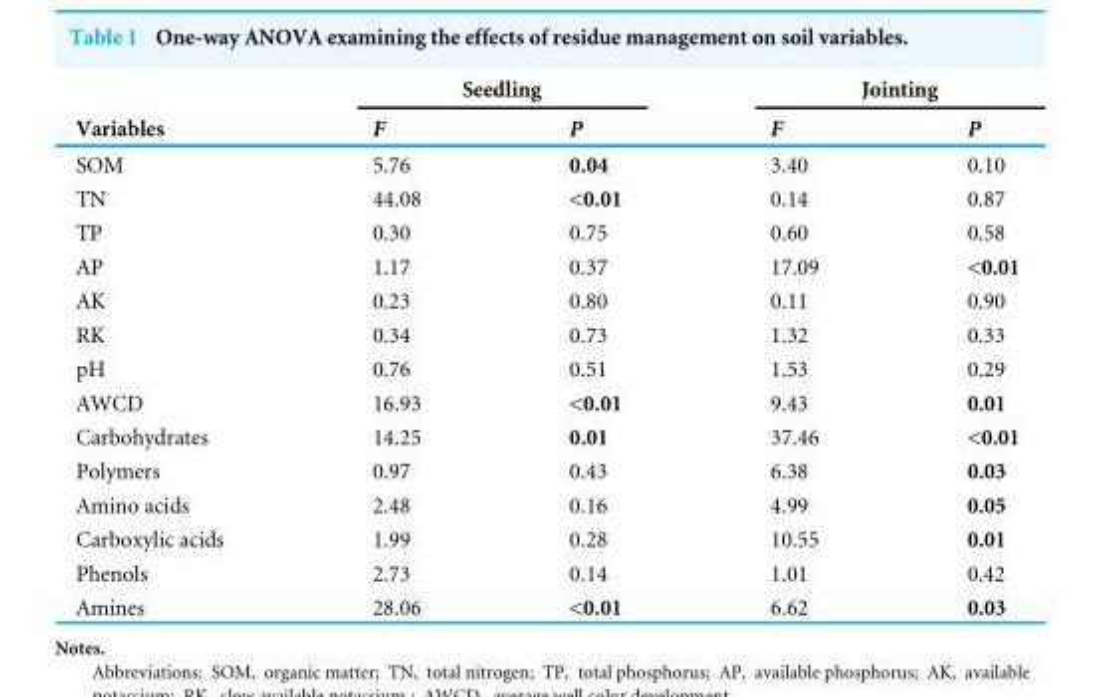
<table><thead><tr><td rowspan="2">Variables</td><td colspan="2">Seedling</td><td colspan="2">Jointing</td></tr><tr><td>F</td><td>P</td><td>F</td><td>P</td></tr></thead><tbody><tr><td>SOM</td><td>5.76</td><td>0.04</td><td>3.40</td><td>0.10</td></tr><tr><td>TN</td><td>44.08</td><td>&lt;0.01</td><td>0.14</td><td>0.87</td></tr><tr><td>TP</td><td>0.30</td><td>0.75</td><td>0.60</td><td>0.58</td></tr><tr><td>AP</td><td>1.17</td><td>0.37</td><td>17.09</td><td>&lt;0.01</td></tr><tr><td>AK</td><td>0.23</td><td>0.80</td><td>0.11</td><td>0.90</td></tr><tr><td>RK</td><td>0.34</td><td>0.73</td><td>1.32</td><td>0.33</td></tr><tr><td>pH</td><td>0.76</td><td>0.51</td><td>1.53</td><td>0.29</td></tr><tr><td>AWCD</td><td>16.93</td><td>&lt;0.01</td><td>9.43</td><td>0.01</td></tr><tr><td>Carbohydrates</td><td>14.25</td><td>0.01</td><td>37.46</td><td>&lt;0.01</td></tr><tr><td>Polymers</td><td>0.97</td><td>0.43</td><td>6.38</td><td>0.03</td></tr><tr><td>Amino acids</td><td>2.48</td><td>0.16</td><td>4.99</td><td>0.05</td></tr><tr><td>Carboxylic acids</td><td>1.99</td><td>0.28</td><td>10.55</td><td>0.01</td></tr><tr><td>Phenols</td><td>2.73</td><td>0.14</td><td>1.01</td><td>0.42</td></tr><tr><td>Amines</td><td>28.06</td><td>&lt;0.01</td><td>6.62</td><td>0.03</td></tr></tbody></table>